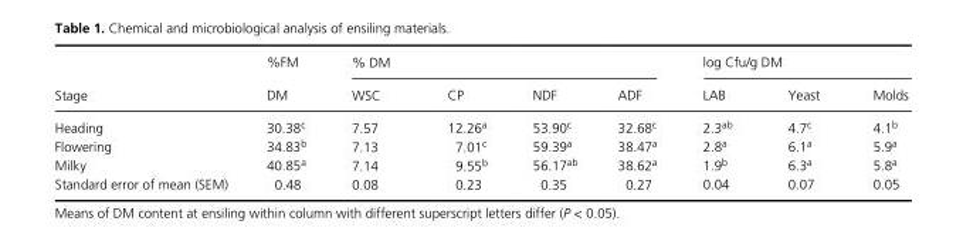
<table><thead><tr><td rowspan="2">Stage</td><td rowspan="2">%FM DM</td><td colspan="4">% DM</td><td colspan="3">log Cfu/g DM</td></tr><tr><td>WSC</td><td>CP</td><td>NDF</td><td>ADF</td><td>LAB</td><td>Yeast</td><td>Molds</td></tr></thead><tbody><tr><td>Heading</td><td>30.38<sup>c</sup></td><td>7.57</td><td>12.26<sup>a</sup></td><td>53.90<sup>c</sup></td><td>32.68<sup>c</sup></td><td>2.3<sup>ab</sup></td><td>4.7<sup>c</sup></td><td>4.1<sup>b</sup></td></tr><tr><td>Flowering</td><td>34.83<sup>b</sup></td><td>7.13</td><td>7.01<sup>c</sup></td><td>59.39<sup>a</sup></td><td>38.47<sup>a</sup></td><td>2.8<sup>a</sup></td><td>6.1<sup>a</sup></td><td>5.9<sup>a</sup></td></tr><tr><td>Milky</td><td>40.85<sup>a</sup></td><td>7.14</td><td>9.55<sup>b</sup></td><td>56.17<sup>ab</sup></td><td>38.62<sup>a</sup></td><td>1.9<sup>b</sup></td><td>6.3<sup>a</sup></td><td>5.8<sup>a</sup></td></tr><tr><td>Standard error of mean (SEM)</td><td>0.48</td><td>0.08</td><td>0.23</td><td>0.35</td><td>0.27</td><td>0.04</td><td>0.07</td><td>0.05</td></tr></tbody></table>